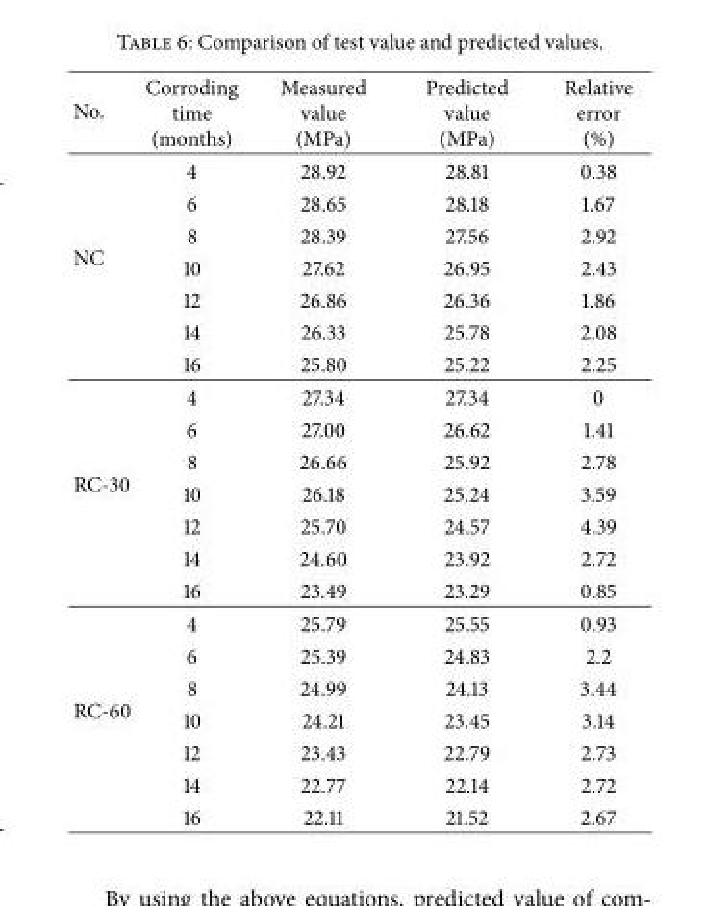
<table><thead><tr><td>No.</td><td>Corroding time (months)</td><td>Measured value (MPa)</td><td>Predicted value (MPa)</td><td>Relative error (%)</td></tr></thead><tbody><tr><td rowspan="7">NC</td><td>4</td><td>28.92</td><td>28.81</td><td>0.38</td></tr><tr><td>6</td><td>28.65</td><td>28.18</td><td>1.67</td></tr><tr><td>8</td><td>28.39</td><td>27.56</td><td>2.92</td></tr><tr><td>10</td><td>27.62</td><td>26.95</td><td>2.43</td></tr><tr><td>12</td><td>26.86</td><td>26.36</td><td>1.86</td></tr><tr><td>14</td><td>26.33</td><td>25.78</td><td>2.08</td></tr><tr><td>16</td><td>25.80</td><td>25.22</td><td>2.25</td></tr><tr><td rowspan="7">RC-30</td><td>4</td><td>27.34</td><td>27.34</td><td>0</td></tr><tr><td>6</td><td>27.00</td><td>26.62</td><td>1.41</td></tr><tr><td>8</td><td>26.66</td><td>25.92</td><td>2.78</td></tr><tr><td>10</td><td>26.18</td><td>25.24</td><td>3.59</td></tr><tr><td>12</td><td>25.70</td><td>24.57</td><td>4.39</td></tr><tr><td>14</td><td>24.60</td><td>23.92</td><td>2.72</td></tr><tr><td>16</td><td>23.49</td><td>23.29</td><td>0.85</td></tr><tr><td rowspan="7">RC-60</td><td>4</td><td>25.79</td><td>25.55</td><td>0.93</td></tr><tr><td>6</td><td>25.39</td><td>24.83</td><td>2.2</td></tr><tr><td>8</td><td>24.99</td><td>24.13</td><td>3.44</td></tr><tr><td>10</td><td>24.21</td><td>23.45</td><td>3.14</td></tr><tr><td>12</td><td>23.43</td><td>22.79</td><td>2.73</td></tr><tr><td>14</td><td>22.77</td><td>22.14</td><td>2.72</td></tr><tr><td>16</td><td>22.11</td><td>21.52</td><td>2.67</td></tr></tbody></table>